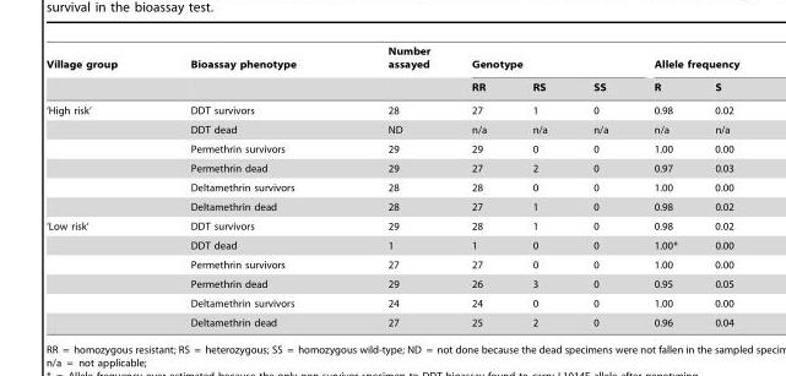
<table><thead><tr><td rowspan="2">Village group</td><td rowspan="2">Bioassay phenotype</td><td rowspan="2">Number assayed</td><td colspan="3">Genotype</td><td colspan="2">Allele frequency</td></tr><tr><td>RR</td><td>RS</td><td>SS</td><td>R</td><td>S</td></tr></thead><tbody><tr><td rowspan="6">‘High risk’</td><td>DDT survivors</td><td>28</td><td>27</td><td>1</td><td>0</td><td>0.98</td><td>0.02</td></tr><tr><td>DDT dead</td><td>ND</td><td>n/a</td><td>n/a</td><td>n/a</td><td>n/a</td><td>n/a</td></tr><tr><td>Permethrin survivors</td><td>29</td><td>29</td><td>0</td><td>0</td><td>1.00</td><td>0.00</td></tr><tr><td>Permethrin dead</td><td>29</td><td>27</td><td>2</td><td>0</td><td>0.97</td><td>0.03</td></tr><tr><td>Deltamethrin survivors</td><td>28</td><td>28</td><td>0</td><td>0</td><td>1.00</td><td>0.00</td></tr><tr><td>Deltamethrin dead</td><td>28</td><td>27</td><td>1</td><td>0</td><td>0.98</td><td>0.02</td></tr><tr><td rowspan="6">‘Low risk’</td><td>DDT survivors</td><td>29</td><td>28</td><td>1</td><td>0</td><td>0.98</td><td>0.02</td></tr><tr><td>DDT dead</td><td>1</td><td>1</td><td>0</td><td>0</td><td>1.00*</td><td>0.00</td></tr><tr><td>Permethrin survivors</td><td>27</td><td>27</td><td>0</td><td>0</td><td>1.00</td><td>0.00</td></tr><tr><td>Permethrin dead</td><td>29</td><td>26</td><td>3</td><td>0</td><td>0.95</td><td>0.05</td></tr><tr><td>Deltamethrin survivors</td><td>24</td><td>24</td><td>0</td><td>0</td><td>1.00</td><td>0.00</td></tr><tr><td>Deltamethrin dead</td><td>27</td><td>25</td><td>2</td><td>0</td><td>0.96</td><td>0.04</td></tr></tbody></table>